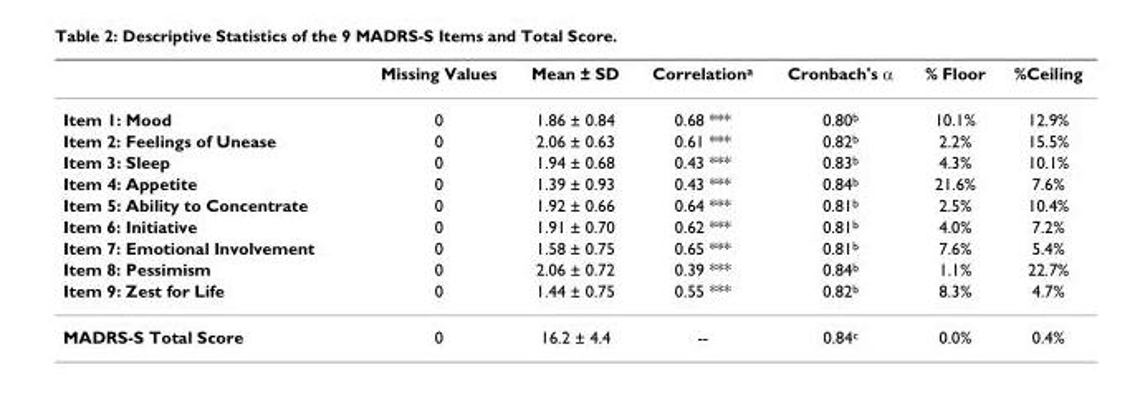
<table><thead><tr><td></td><td>Missing Values</td><td>Mean ± SD</td><td>Correlation<sup>a</sup></td><td>Cronbach&#x27;s α</td><td>% Floor</td><td>%Ceiling</td></tr></thead><tbody><tr><td>Item 1: Mood</td><td>0</td><td>1.86 ± 0.84</td><td>0.68 ***</td><td>0.80<sup>b</sup></td><td>10.1%</td><td>12.9%</td></tr><tr><td>Item 2: Feelings of Unease</td><td>0</td><td>2.06 ± 0.63</td><td>0.61 ***</td><td>0.82<sup>b</sup></td><td>2.2%</td><td>15.5%</td></tr><tr><td>Item 3: Sleep</td><td>0</td><td>1.94 ± 0.68</td><td>0.43 ***</td><td>0.83<sup>b</sup></td><td>4.3%</td><td>10.1%</td></tr><tr><td>Item 4: Appetite</td><td>0</td><td>1.39 ± 0.93</td><td>0.43 ***</td><td>0.84<sup>b</sup></td><td>21.6%</td><td>7.6%</td></tr><tr><td>Item 5: Ability to Concentrate</td><td>0</td><td>1.92 ± 0.66</td><td>0.64 ***</td><td>0.81<sup>b</sup></td><td>2.5%</td><td>10.4%</td></tr><tr><td>Item 6: Initiative</td><td>0</td><td>1.91 ± 0.70</td><td>0.62 ***</td><td>0.81<sup>b</sup></td><td>4.0%</td><td>7.2%</td></tr><tr><td>Item 7: Emotional Involvement</td><td>0</td><td>1.58 ± 0.75</td><td>0.65 ***</td><td>0.81<sup>b</sup></td><td>7.6%</td><td>5.4%</td></tr><tr><td>Item 8: Pessimism</td><td>0</td><td>2.06 ± 0.72</td><td>0.39 ***</td><td>0.84<sup>b</sup></td><td>1.1%</td><td>22.7%</td></tr><tr><td>Item 9: Zest for Life</td><td>0</td><td>1.44 ± 0.75</td><td>0.55 ***</td><td>0.82<sup>b</sup></td><td>8.3%</td><td>4.7%</td></tr><tr><td>MADRS-S Total Score</td><td>0</td><td>16.2 ± 4.4</td><td>--</td><td>0.84<sup>c</sup></td><td>0.0%</td><td>0.4%</td></tr></tbody></table>